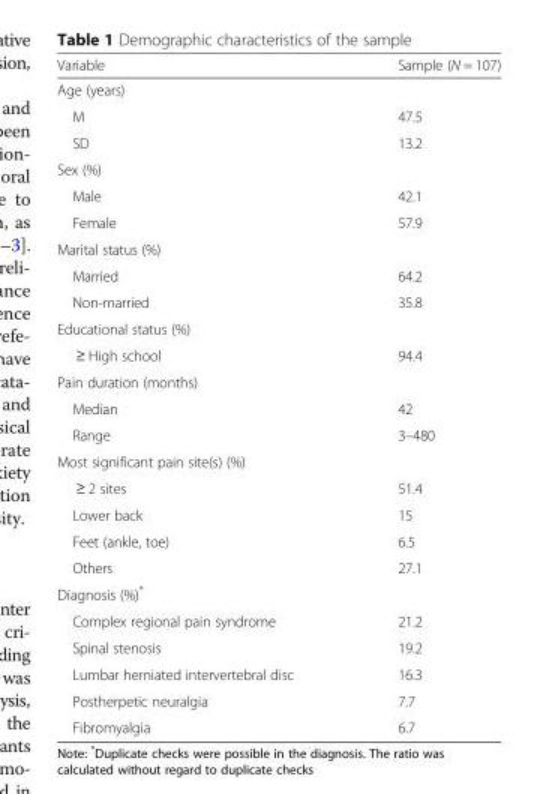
<table><thead><tr><td>Variable</td><td>Sample (N = 107)</td></tr></thead><tbody><tr><td colspan="2">Age (years)</td></tr><tr><td>M</td><td>47.5</td></tr><tr><td>SD</td><td>13.2</td></tr><tr><td colspan="2">Sex (%)</td></tr><tr><td>Male</td><td>42.1</td></tr><tr><td>Female</td><td>57.9</td></tr><tr><td colspan="2">Marital status (%)</td></tr><tr><td>Married</td><td>64.2</td></tr><tr><td>Non-married</td><td>35.8</td></tr><tr><td colspan="2">Educational status (%)</td></tr><tr><td>≥ High school</td><td>94.4</td></tr><tr><td colspan="2">Pain duration (months)</td></tr><tr><td>Median</td><td>42</td></tr><tr><td>Range</td><td>3–480</td></tr><tr><td colspan="2">Most significant pain site(s) (%)</td></tr><tr><td>≥ 2 sites</td><td>51.4</td></tr><tr><td>Lower back</td><td>15</td></tr><tr><td>Feet (ankle, toe)</td><td>6.5</td></tr><tr><td>Others</td><td>27.1</td></tr><tr><td colspan="2">Diagnosis (%)*</td></tr><tr><td>Complex regional pain syndrome</td><td>21.2</td></tr><tr><td>Spinal stenosis</td><td>19.2</td></tr><tr><td>Lumbar herniated intervertebral disc</td><td>16.3</td></tr><tr><td>Postherpetic neuralgia</td><td>7.7</td></tr><tr><td>Fibromyalgia</td><td>6.7</td></tr></tbody></table>